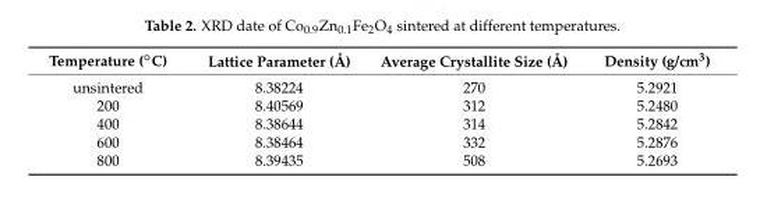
<table><thead><tr><td>Temperature (◦C)</td><td>Lattice Parameter (Å)</td><td>Average Crystallite Size (Å)</td><td>Density (g/cm<sup>3</sup>)</td></tr></thead><tbody><tr><td>unsintered</td><td>8.38224</td><td>270</td><td>5.2921</td></tr><tr><td>200</td><td>8.40569</td><td>312</td><td>5.2480</td></tr><tr><td>400</td><td>8.38644</td><td>314</td><td>5.2842</td></tr><tr><td>600</td><td>8.38464</td><td>332</td><td>5.2876</td></tr><tr><td>800</td><td>8.39435</td><td>508</td><td>5.2693</td></tr></tbody></table>